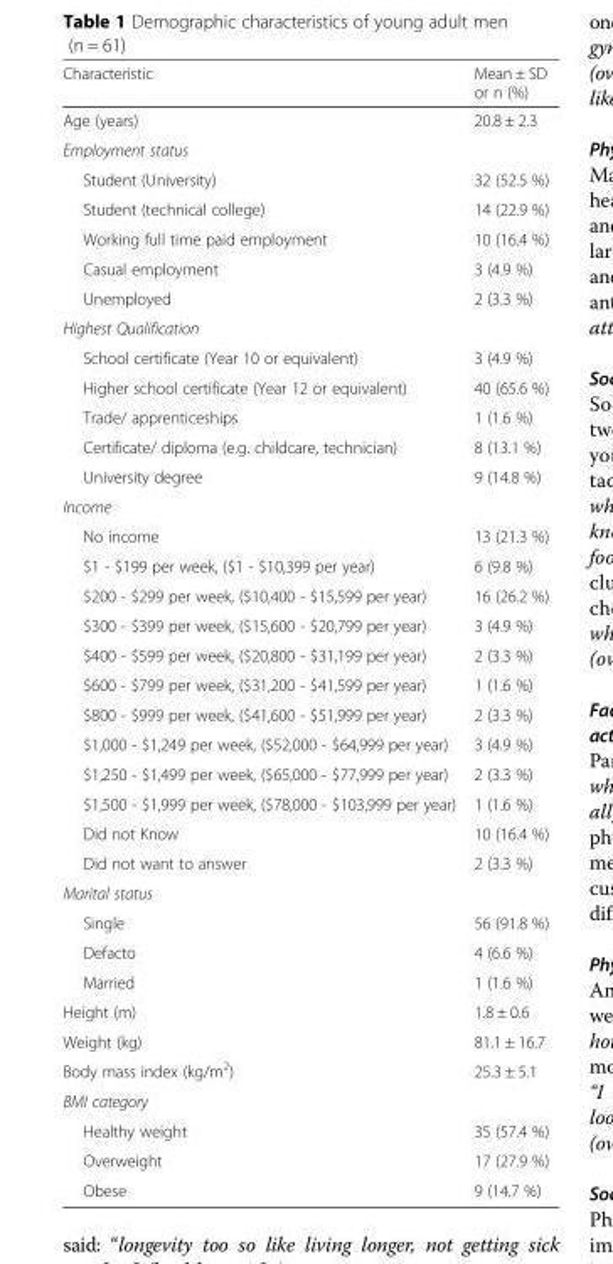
<table><thead><tr><td>Characteristic</td><td>Mean ± SD or n (%)</td></tr></thead><tbody><tr><td>Age (years)</td><td>20.8 ± 2.3</td></tr><tr><td colspan="2">Employment status</td></tr><tr><td>Student (University)</td><td>32 (52.5 %)</td></tr><tr><td>Student (technical college)</td><td>14 (22.9 %)</td></tr><tr><td>Working full time paid employment</td><td>10 (16.4 %)</td></tr><tr><td>Casual employment</td><td>3 (4.9 %)</td></tr><tr><td>Unemployed</td><td>2 (3.3 %)</td></tr><tr><td colspan="2">Highest Qualification</td></tr><tr><td>School certificate (Year 10 or equivalent)</td><td>3 (4.9 %)</td></tr><tr><td>Higher school certificate (Year 12 or equivalent)</td><td>40 (65.6 %)</td></tr><tr><td>Trade/ apprenticeships</td><td>1 (1.6 %)</td></tr><tr><td>Certificate/ diploma (e.g. childcare, technician)</td><td>8 (13.1 %)</td></tr><tr><td>University degree</td><td>9 (14.8 %)</td></tr><tr><td colspan="2">Income</td></tr><tr><td>No income</td><td>13 (21.3 %)</td></tr><tr><td>$1 - $199 per week, ($1 - $10,399 per year)</td><td>6 (9.8 %)</td></tr><tr><td>$200 - $299 per week, ($10,400 - $15,599 per year)</td><td>16 (26.2 %)</td></tr><tr><td>$300 - $399 per week, ($15,600 - $20,799 per year)</td><td>3 (4.9 %)</td></tr><tr><td>$400 - $599 per week, ($20,800 - $31,199 per year)</td><td>2 (3.3 %)</td></tr><tr><td>$600 - $799 per week, ($31,200 - $41,599 per year)</td><td>1 (1.6 %)</td></tr><tr><td>$800 - $999 per week, ($41,600 - $51,999 per year)</td><td>2 (3.3 %)</td></tr><tr><td>$1,000 - $1,249 per week, ($52,000 - $64,999 per year)</td><td>3 (4.9 %)</td></tr><tr><td>$1,250 - $1,499 per week, ($65,000 - $77,999 per year)</td><td>2 (3.3 %)</td></tr><tr><td>$1,500 - $1,999 per week, ($78,000 - $103,999 per year)</td><td>1 (1.6 %)</td></tr><tr><td>Did not Know</td><td>10 (16.4 %)</td></tr><tr><td>Did not want to answer</td><td>2 (3.3 %)</td></tr><tr><td colspan="2">Marital status</td></tr><tr><td>Single</td><td>56 (91.8 %)</td></tr><tr><td>Defacto</td><td>4 (6.6 %)</td></tr><tr><td>Married</td><td>1 (1.6 %)</td></tr><tr><td>Height (m)</td><td>1.8 ± 0.6</td></tr><tr><td>Weight (kg)</td><td>81.1 ± 16.7</td></tr><tr><td>Body mass index (kg/m<sup>2</sup>)</td><td>25.3 ± 5.1</td></tr><tr><td colspan="2">BMI category</td></tr><tr><td>Healthy weight</td><td>35 (57.4 %)</td></tr><tr><td>Overweight</td><td>17 (27.9 %)</td></tr><tr><td>Obese</td><td>9 (14.7 %)</td></tr></tbody></table>